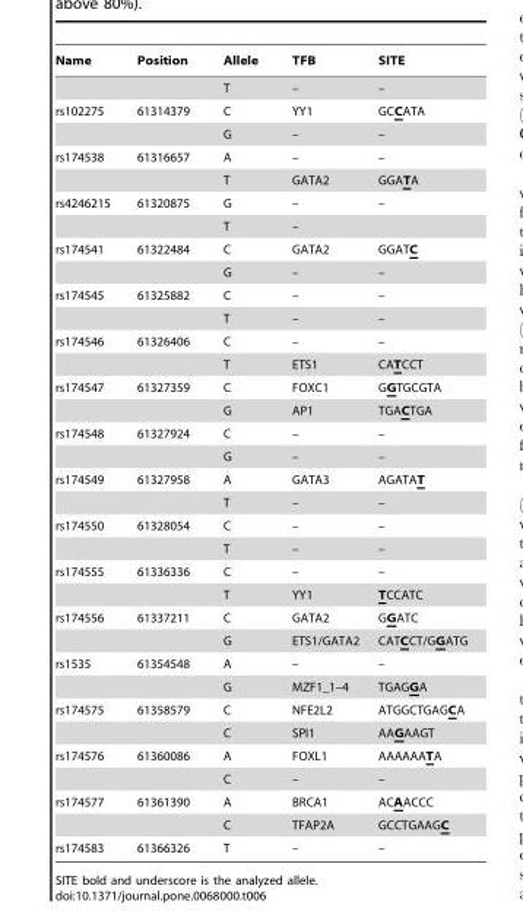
<table><thead><tr><td>Name</td><td>Position</td><td>Allele</td><td>TFB</td><td>SITE</td></tr></thead><tbody><tr><td></td><td></td><td>T</td><td>–</td><td>–</td></tr><tr><td rowspan="2">rs102275</td><td>61314379</td><td>C</td><td>YY1</td><td>GCCATA</td></tr><tr><td></td><td>G</td><td>–</td><td>–</td></tr><tr><td rowspan="2">rs174538</td><td>61316657</td><td>A</td><td>–</td><td>–</td></tr><tr><td></td><td>T</td><td>GATA2</td><td>GGATA</td></tr><tr><td rowspan="2">rs4246215</td><td>61320875</td><td>G</td><td>–</td><td>–</td></tr><tr><td></td><td>T</td><td>–</td><td></td></tr><tr><td rowspan="2">rs174541</td><td>61322484</td><td>C</td><td>GATA2</td><td>GGATC</td></tr><tr><td></td><td>G</td><td>–</td><td>–</td></tr><tr><td rowspan="2">rs174545</td><td>61325882</td><td>C</td><td>–</td><td>–</td></tr><tr><td></td><td>T</td><td>–</td><td>–</td></tr><tr><td rowspan="2">rs174546</td><td>61326406</td><td>C</td><td>–</td><td>–</td></tr><tr><td></td><td>T</td><td>ETS1</td><td>CATCCT</td></tr><tr><td rowspan="2">rs174547</td><td>61327359</td><td>C</td><td>FOXC1</td><td>GGTGCGTA</td></tr><tr><td></td><td>G</td><td>AP1</td><td>TGACTGA</td></tr><tr><td rowspan="2">rs174548</td><td>61327924</td><td>C</td><td>–</td><td>–</td></tr><tr><td></td><td>G</td><td>–</td><td>–</td></tr><tr><td rowspan="2">rs174549</td><td>61327958</td><td>A</td><td>GATA3</td><td>AGATAT</td></tr><tr><td></td><td>T</td><td>–</td><td>–</td></tr><tr><td rowspan="2">rs174550</td><td>61328054</td><td>C</td><td>–</td><td>–</td></tr><tr><td></td><td>T</td><td>–</td><td>–</td></tr><tr><td rowspan="2">rs174555</td><td>61336336</td><td>C</td><td>–</td><td>–</td></tr><tr><td></td><td>T</td><td>YY1</td><td>TCCATC</td></tr><tr><td rowspan="2">rs174556</td><td>61337211</td><td>C</td><td>GATA2</td><td>GGATC</td></tr><tr><td></td><td>G</td><td>ETS1/GATA2</td><td>CATCCT/GGATG</td></tr><tr><td rowspan="2">rs1535</td><td>61354548</td><td>A</td><td>–</td><td>–</td></tr><tr><td></td><td>G</td><td>MZF1_1–4</td><td>TGAGGA</td></tr><tr><td rowspan="2">rs174575</td><td>61358579</td><td>C</td><td>NFE2L2</td><td>ATGGCTGAGCA</td></tr><tr><td></td><td>C</td><td>SPI1</td><td>AAGAAGT</td></tr><tr><td rowspan="2">rs174576</td><td>61360086</td><td>A</td><td>FOXL1</td><td>AAAAAATA</td></tr><tr><td></td><td>C</td><td>–</td><td>–</td></tr><tr><td rowspan="2">rs174577</td><td>61361390</td><td>A</td><td>BRCA1</td><td>ACAACCC</td></tr><tr><td></td><td>C</td><td>TFAP2A</td><td>GCCTGAAGC</td></tr><tr><td>rs174583</td><td>61366326</td><td>T</td><td>–</td><td>–</td></tr></tbody></table>